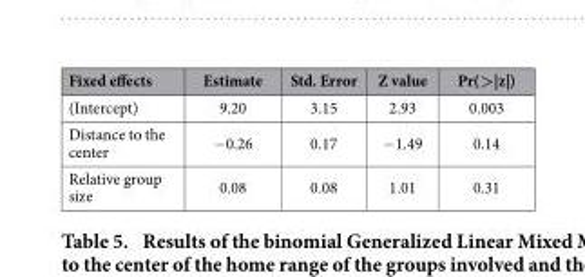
<table><thead><tr><td>Fixed effects</td><td>Estimate</td><td>Std. Error</td><td>Z value</td><td>Pr(&gt;|z|)</td></tr></thead><tbody><tr><td>(Intercept)</td><td>9.20</td><td>3.15</td><td>2.93</td><td>0.003</td></tr><tr><td>Distance to the center</td><td>− 0.26</td><td>0.17</td><td>− 1.49</td><td>0.14</td></tr><tr><td>Relative group size</td><td>0.08</td><td>0.08</td><td>1.01</td><td>0.31</td></tr></tbody></table>